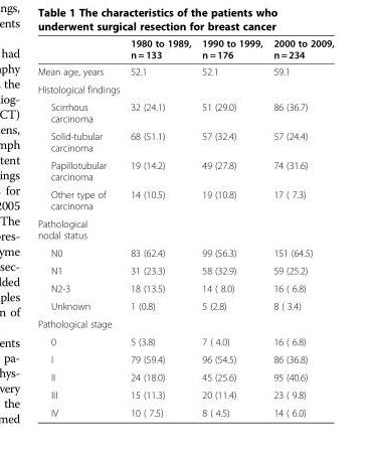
<table><thead><tr><td></td><td>1980 to 1989, n = 133</td><td>1990 to 1999, n = 176</td><td>2000 to 2009, n = 234</td></tr></thead><tbody><tr><td>Mean age, years</td><td>52.1</td><td>52.1</td><td>59.1</td></tr><tr><td colspan="4">Histological findings</td></tr><tr><td>Scirrhous carcinoma</td><td>32 (24.1)</td><td>51 (29.0)</td><td>86 (36.7)</td></tr><tr><td>Solid-tubular carcinoma</td><td>68 (51.1)</td><td>57 (32.4)</td><td>57 (24.4)</td></tr><tr><td>Papillotubular carcinoma</td><td>19 (14.2)</td><td>49 (27.8)</td><td>74 (31.6)</td></tr><tr><td>Other type of carcinoma</td><td>14 (10.5)</td><td>19 (10.8)</td><td>17 ( 7.3)</td></tr><tr><td colspan="4">Pathological nodal status</td></tr><tr><td>N0</td><td>83 (62.4)</td><td>99 (56.3)</td><td>151 (64.5)</td></tr><tr><td>N1</td><td>31 (23.3)</td><td>58 (32.9)</td><td>59 (25.2)</td></tr><tr><td>N2-3</td><td>18 (13.5)</td><td>14 ( 8.0)</td><td>16 ( 6.8)</td></tr><tr><td>Unknown</td><td>1 (0.8)</td><td>5 (2.8)</td><td>8 ( 3.4)</td></tr><tr><td colspan="4">Pathological stage</td></tr><tr><td>0</td><td>5 (3.8)</td><td>7 ( 4.0)</td><td>16 ( 6.8)</td></tr><tr><td>I</td><td>79 (59.4)</td><td>96 (54.5)</td><td>86 (36.8)</td></tr><tr><td>II</td><td>24 (18.0)</td><td>45 (25.6)</td><td>95 (40.6)</td></tr><tr><td>III</td><td>15 (11.3)</td><td>20 (11.4)</td><td>23 ( 9.8)</td></tr><tr><td>IV</td><td>10 ( 7.5)</td><td>8 ( 4.5)</td><td>14 ( 6.0)</td></tr></tbody></table>